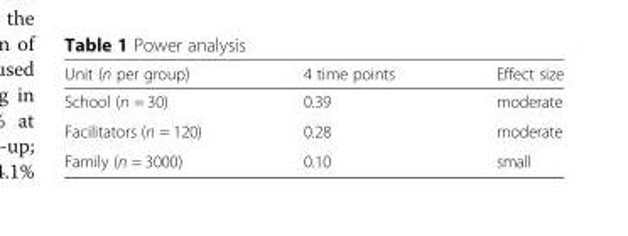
<table><thead><tr><td>Unit (n per group)</td><td>4 time points</td><td>Effect size</td></tr></thead><tbody><tr><td>School (n = 30)</td><td>0.39</td><td>moderate</td></tr><tr><td>Facilitators (n = 120)</td><td>0.28</td><td>moderate</td></tr><tr><td>Family (n = 3000)</td><td>0.10</td><td>small</td></tr></tbody></table>